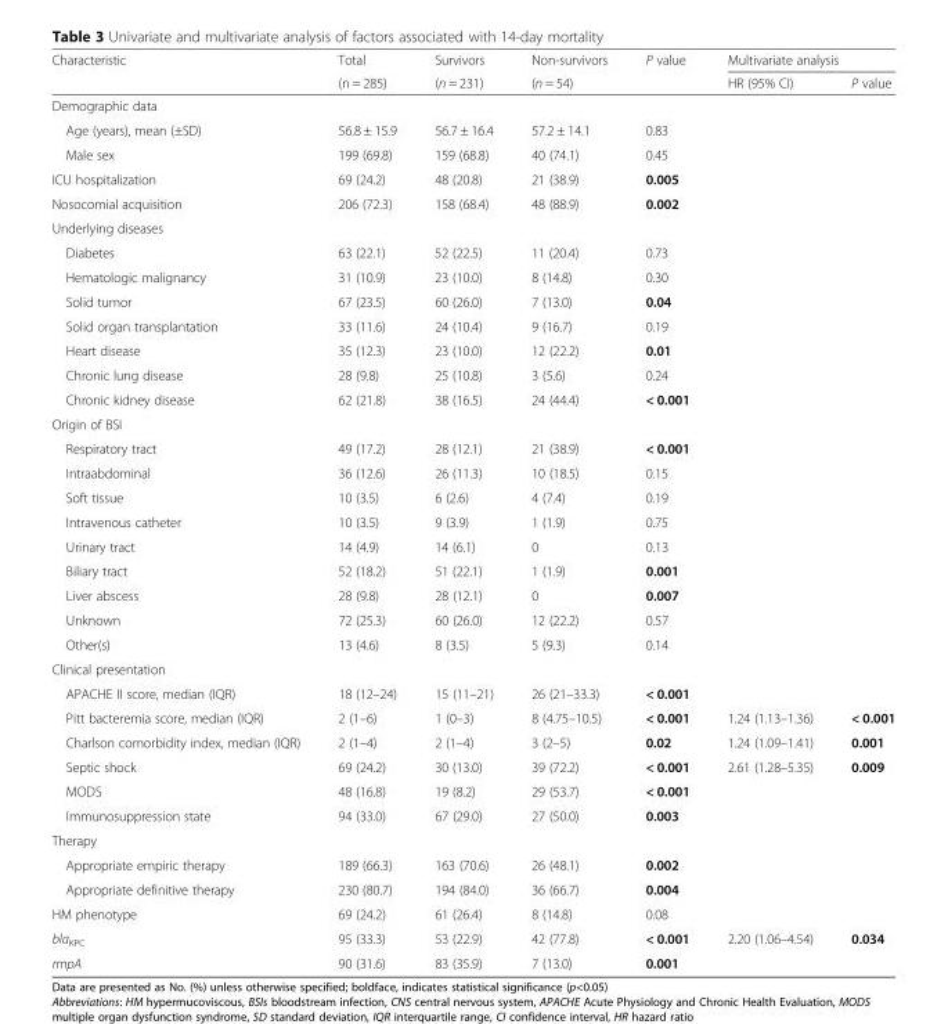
<table><thead><tr><td rowspan="2">Characteristic</td><td rowspan="2">Total (n = 285)</td><td rowspan="2">Survivors (n = 231)</td><td rowspan="2">Non-survivors (n = 54)</td><td rowspan="2">P value</td><td colspan="2">Multivariate analysis</td></tr><tr><td>HR (95% CI)</td><td>P value</td></tr></thead><tbody><tr><td colspan="7">Demographic data</td></tr><tr><td>Age (years), mean (±SD)</td><td>56.8 ± 15.9</td><td>56.7 ± 16.4</td><td>57.2 ± 14.1</td><td>0.83</td><td></td><td></td></tr><tr><td>Male sex</td><td>199 (69.8)</td><td>159 (68.8)</td><td>40 (74.1)</td><td>0.45</td><td></td><td></td></tr><tr><td>ICU hospitalization</td><td>69 (24.2)</td><td>48 (20.8)</td><td>21 (38.9)</td><td>0.005</td><td></td><td></td></tr><tr><td>Nosocomial acquisition</td><td>206 (72.3)</td><td>158 (68.4)</td><td>48 (88.9)</td><td>0.002</td><td></td><td></td></tr><tr><td colspan="7">Underlying diseases</td></tr><tr><td>Diabetes</td><td>63 (22.1)</td><td>52 (22.5)</td><td>11 (20.4)</td><td>0.73</td><td></td><td></td></tr><tr><td>Hematologic malignancy</td><td>31 (10.9)</td><td>23 (10.0)</td><td>8 (14.8)</td><td>0.30</td><td></td><td></td></tr><tr><td>Solid tumor</td><td>67 (23.5)</td><td>60 (26.0)</td><td>7 (13.0)</td><td>0.04</td><td></td><td></td></tr><tr><td>Solid organ transplantation</td><td>33 (11.6)</td><td>24 (10.4)</td><td>9 (16.7)</td><td>0.19</td><td></td><td></td></tr><tr><td>Heart disease</td><td>35 (12.3)</td><td>23 (10.0)</td><td>12 (22.2)</td><td>0.01</td><td></td><td></td></tr><tr><td>Chronic lung disease</td><td>28 (9.8)</td><td>25 (10.8)</td><td>3 (5.6)</td><td>0.24</td><td></td><td></td></tr><tr><td>Chronic kidney disease</td><td>62 (21.8)</td><td>38 (16.5)</td><td>24 (44.4)</td><td>&lt; 0.001</td><td></td><td></td></tr><tr><td colspan="7">Origin of BSI</td></tr><tr><td>Respiratory tract</td><td>49 (17.2)</td><td>28 (12.1)</td><td>21 (38.9)</td><td>&lt; 0.001</td><td></td><td></td></tr><tr><td>Intraabdominal</td><td>36 (12.6)</td><td>26 (11.3)</td><td>10 (18.5)</td><td>0.15</td><td></td><td></td></tr><tr><td>Soft tissue</td><td>10 (3.5)</td><td>6 (2.6)</td><td>4 (7.4)</td><td>0.19</td><td></td><td></td></tr><tr><td>Intravenous catheter</td><td>10 (3.5)</td><td>9 (3.9)</td><td>1 (1.9)</td><td>0.75</td><td></td><td></td></tr><tr><td>Urinary tract</td><td>14 (4.9)</td><td>14 (6.1)</td><td>0</td><td>0.13</td><td></td><td></td></tr><tr><td>Biliary tract</td><td>52 (18.2)</td><td>51 (22.1)</td><td>1 (1.9)</td><td>0.001</td><td></td><td></td></tr><tr><td>Liver abscess</td><td>28 (9.8)</td><td>28 (12.1)</td><td>0</td><td>0.007</td><td></td><td></td></tr><tr><td>Unknown</td><td>72 (25.3)</td><td>60 (26.0)</td><td>12 (22.2)</td><td>0.57</td><td></td><td></td></tr><tr><td>Other(s)</td><td>13 (4.6)</td><td>8 (3.5)</td><td>5 (9.3)</td><td>0.14</td><td></td><td></td></tr><tr><td colspan="7">Clinical presentation</td></tr><tr><td>APACHE II score, median (IQR)</td><td>18 (12–24)</td><td>15 (11–21)</td><td>26 (21–33.3)</td><td>&lt; 0.001</td><td></td><td></td></tr><tr><td>Pitt bacteremia score, median (IQR)</td><td>2 (1–6)</td><td>1 (0–3)</td><td>8 (4.75–10.5)</td><td>&lt; 0.001</td><td>1.24 (1.13–1.36)</td><td>&lt; 0.001</td></tr><tr><td>Charlson comorbidity index, median (IQR)</td><td>2 (1–4)</td><td>2 (1–4)</td><td>3 (2–5)</td><td>0.02</td><td>1.24 (1.09–1.41)</td><td>0.001</td></tr><tr><td>Septic shock</td><td>69 (24.2)</td><td>30 (13.0)</td><td>39 (72.2)</td><td>&lt; 0.001</td><td>2.61 (1.28–5.35)</td><td>0.009</td></tr><tr><td>MODS</td><td>48 (16.8)</td><td>19 (8.2)</td><td>29 (53.7)</td><td>&lt; 0.001</td><td></td><td></td></tr><tr><td>Immunosuppression state</td><td>94 (33.0)</td><td>67 (29.0)</td><td>27 (50.0)</td><td>0.003</td><td></td><td></td></tr><tr><td colspan="7">Therapy</td></tr><tr><td>Appropriate empiric therapy</td><td>189 (66.3)</td><td>163 (70.6)</td><td>26 (48.1)</td><td>0.002</td><td></td><td></td></tr><tr><td>Appropriate definitive therapy</td><td>230 (80.7)</td><td>194 (84.0)</td><td>36 (66.7)</td><td>0.004</td><td></td><td></td></tr><tr><td>HM phenotype</td><td>69 (24.2)</td><td>61 (26.4)</td><td>8 (14.8)</td><td>0.08</td><td></td><td></td></tr><tr><td>bla<sub>KPC</sub></td><td>95 (33.3)</td><td>53 (22.9)</td><td>42 (77.8)</td><td>&lt; 0.001</td><td>2.20 (1.06–4.54)</td><td>0.034</td></tr><tr><td>rmpA</td><td>90 (31.6)</td><td>83 (35.9)</td><td>7 (13.0)</td><td>0.001</td><td></td><td></td></tr></tbody></table>